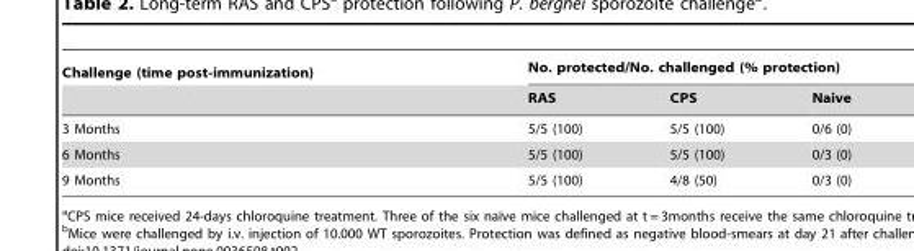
<table><thead><tr><td rowspan="2">Challenge (time post-immunization)</td><td colspan="3">No. protected/No. challenged (% protection)</td></tr><tr><td>RAS</td><td>CPS</td><td>Naive</td></tr></thead><tbody><tr><td>3 Months</td><td>5/5 (100)</td><td>5/5 (100)</td><td>0/6 (0)</td></tr><tr><td>6 Months</td><td>5/5 (100)</td><td>5/5 (100)</td><td>0/3 (0)</td></tr><tr><td>9 Months</td><td>5/5 (100)</td><td>4/8 (50)</td><td>0/3 (0)</td></tr></tbody></table>